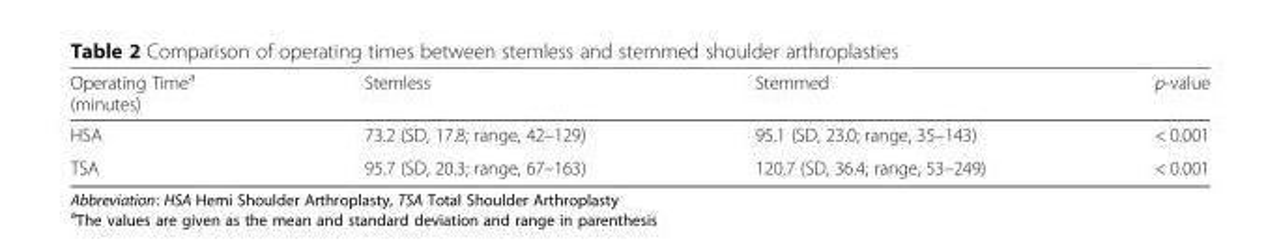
<table><thead><tr><td>Operating Time<sup>a</sup> (minutes)</td><td>Stemless</td><td>Stemmed</td><td>p-value</td></tr></thead><tbody><tr><td>HSA</td><td>73.2 (SD, 17.8; range, 42–129)</td><td>95.1 (SD, 23.0; range, 35–143)</td><td>&lt; 0.001</td></tr><tr><td>TSA</td><td>95.7 (SD, 20.3; range, 67–163)</td><td>120.7 (SD, 36.4; range, 53–249)</td><td>&lt; 0.001</td></tr></tbody></table>